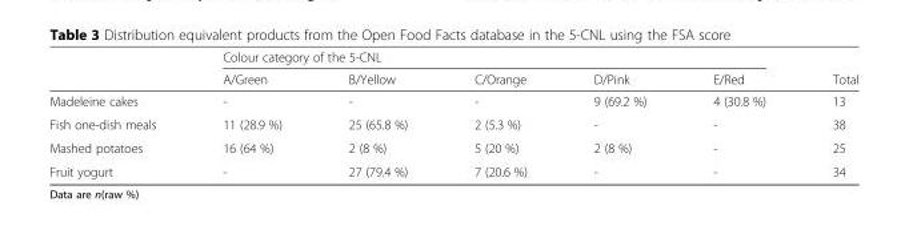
<table><thead><tr><td rowspan="2"></td><td colspan="5">Colour category of the 5-CNL</td><td rowspan="2">Total</td></tr><tr><td>A/Green</td><td>B/Yellow</td><td>C/Orange</td><td>D/Pink</td><td>E/Red</td></tr></thead><tbody><tr><td>Madeleine cakes</td><td>-</td><td>-</td><td>-</td><td>9 (69.2 %)</td><td>4 (30.8 %)</td><td>13</td></tr><tr><td>Fish one-dish meals</td><td>11 (28.9 %)</td><td>25 (65.8 %)</td><td>2 (5.3 %)</td><td>-</td><td>-</td><td>38</td></tr><tr><td>Mashed potatoes</td><td>16 (64 %)</td><td>2 (8 %)</td><td>5 (20 %)</td><td>2 (8 %)</td><td>-</td><td>25</td></tr><tr><td>Fruit yogurt</td><td>-</td><td>27 (79.4 %)</td><td>7 (20.6 %)</td><td>-</td><td>-</td><td>34</td></tr></tbody></table>